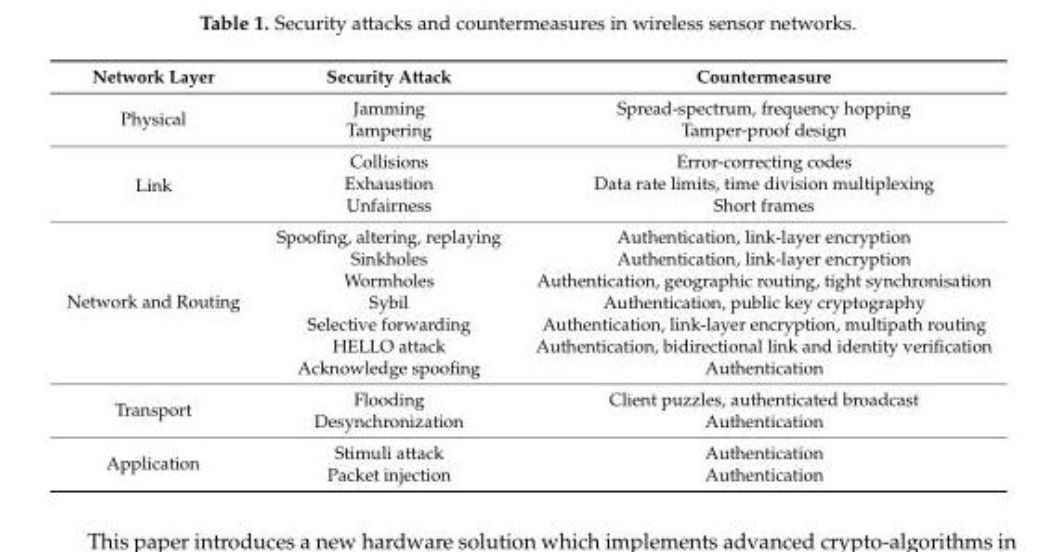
<table><thead><tr><td>Network Layer</td><td>Security Attack</td><td>Countermeasure</td></tr></thead><tbody><tr><td rowspan="2">Physical</td><td>Jamming</td><td>Spread-spectrum, frequency hopping</td></tr><tr><td>Tampering</td><td>Tamper-proof design</td></tr><tr><td rowspan="3">Link</td><td>Collisions</td><td>Error-correcting codes</td></tr><tr><td>Exhaustion</td><td>Data rate limits, time division multiplexing</td></tr><tr><td>Unfairness</td><td>Short frames</td></tr><tr><td rowspan="7">Network and Routing</td><td>Spoofing, altering, replaying</td><td>Authentication, link-layer encryption</td></tr><tr><td>Sinkholes</td><td>Authentication, link-layer encryption</td></tr><tr><td>Wormholes</td><td>Authentication, geographic routing, tight synchronisation</td></tr><tr><td>Sybil</td><td>Authentication, public key cryptography</td></tr><tr><td>Selective forwarding</td><td>Authentication, link-layer encryption, multipath routing</td></tr><tr><td>HELLO attack</td><td>Authentication, bidirectional link and identity verification</td></tr><tr><td>Acknowledge spoofing</td><td>Authentication</td></tr><tr><td rowspan="2">Transport</td><td>Flooding</td><td>Client puzzles, authenticated broadcast</td></tr><tr><td>Desynchronization</td><td>Authentication</td></tr><tr><td rowspan="2">Application</td><td>Stimuli attack</td><td>Authentication</td></tr><tr><td>Packet injection</td><td>Authentication</td></tr></tbody></table>